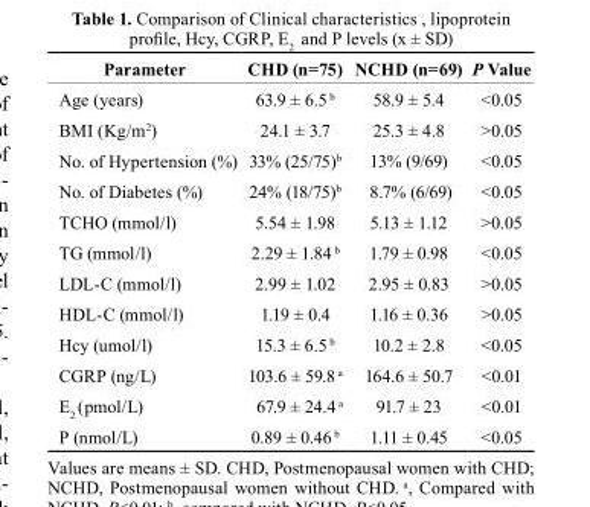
<table><thead><tr><td>Parameter</td><td>cHD (n=75)</td><td>NcHD (n=69)</td><td>P Value</td></tr></thead><tbody><tr><td>Age (years)</td><td>63.9 ± 6.5 b</td><td>58.9 ± 5.4</td><td>&lt;0.05</td></tr><tr><td>BMI (Kg/m<sup>2</sup>)</td><td>24.1 ± 3.7</td><td>25.3 ± 4.8</td><td>&gt;0.05</td></tr><tr><td>No. of Hypertension (%)</td><td>33% (25/75)b</td><td>13% (9/69)</td><td>&lt;0.05</td></tr><tr><td>No. of Diabetes (%)</td><td>24% (18/75)b</td><td>8.7% (6/69)</td><td>&lt;0.05</td></tr><tr><td>TCHO (mmol/l)</td><td>5.54 ± 1.98</td><td>5.13 ± 1.12</td><td>&gt;0.05</td></tr><tr><td>TG (mmol/l)</td><td>2.29 ± 1.84 b</td><td>1.79 ± 0.98</td><td>&lt;0.05</td></tr><tr><td>LDL-C (mmol/l)</td><td>2.99 ± 1.02</td><td>2.95 ± 0.83</td><td>&gt;0.05</td></tr><tr><td>HDL-C (mmol/l)</td><td>1.19 ± 0.4</td><td>1.16 ± 0.36</td><td>&gt;0.05</td></tr><tr><td>Hcy (umol/l)</td><td>15.3 ± 6.5 b</td><td>10.2 ± 2.8</td><td>&lt;0.05</td></tr><tr><td>CGRP (ng/L)</td><td>103.6 ± 59.8 a</td><td>164.6 ± 50.7</td><td>&lt;0.01</td></tr><tr><td>E<sub>2</sub> (pmol/L)</td><td>67.9 ± 24.4 a</td><td>91.7 ± 23</td><td>&lt;0.01</td></tr><tr><td>P (nmol/L)</td><td>0.89 ± 0.46 b</td><td>1.11 ± 0.45</td><td>&lt;0.05</td></tr></tbody></table>